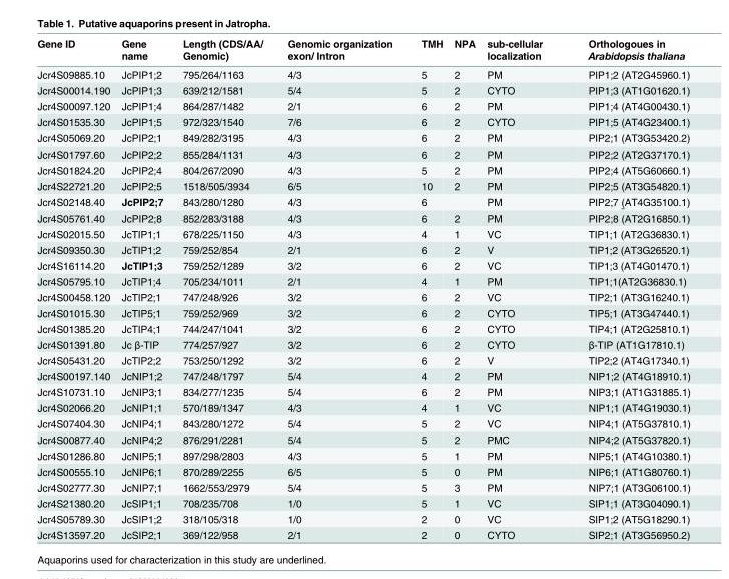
<table><thead><tr><td>Gene ID</td><td>Gene name</td><td>Length (CDS/AA/ Genomic)</td><td>Genomic organization exon/ Intron</td><td>TMH</td><td>NPA</td><td>sub-cellular localization</td><td>Orthologoues in Arabidopsis thaliana</td></tr></thead><tbody><tr><td>Jcr4S09885.10</td><td>JcPIP1;2</td><td>795/264/1163</td><td>4/3</td><td>5</td><td>2</td><td>PM</td><td>PIP1;2 (AT2G45960.1)</td></tr><tr><td>Jcr4S00014.190</td><td>JcPIP1;3</td><td>639/212/1581</td><td>5/4</td><td>5</td><td>2</td><td>CYTO</td><td>PIP1;3 (AT1G01620.1)</td></tr><tr><td>Jcr4S00097.120</td><td>JcPIP1;4</td><td>864/287/1482</td><td>2/1</td><td>6</td><td>2</td><td>PM</td><td>PIP1;4 (AT4G00430.1)</td></tr><tr><td>Jcr4S01535.30</td><td>JcPIP1;5</td><td>972/323/1540</td><td>7/6</td><td>6</td><td>2</td><td>CYTO</td><td>PIP1;5 (AT4G23400.1)</td></tr><tr><td>Jcr4S05069.20</td><td>JcPIP2;1</td><td>849/282/3195</td><td>4/3</td><td>6</td><td>2</td><td>PM</td><td>PIP2;1 (AT3G53420.2)</td></tr><tr><td>Jcr4S01797.60</td><td>JcPIP2;2</td><td>855/284/1131</td><td>4/3</td><td>6</td><td>2</td><td>PM</td><td>PIP2;2 (AT2G37170.1)</td></tr><tr><td>Jcr4S01824.20</td><td>JcPIP2;4</td><td>804/267/2090</td><td>4/3</td><td>5</td><td>2</td><td>PM</td><td>PIP2;4 (AT5G60660.1)</td></tr><tr><td>Jcr4S22721.20</td><td>JcPIP2;5</td><td>1518/505/3934</td><td>6/5</td><td>10</td><td>2</td><td>PM</td><td>PIP2;5 (AT3G54820.1)</td></tr><tr><td>Jcr4S02148.40</td><td>JcPIP2;7</td><td>843/280/1280</td><td>4/3</td><td>6</td><td></td><td>PM</td><td>PIP2;7 (AT4G35100.1)</td></tr><tr><td>Jcr4S05761.40</td><td>JcPIP2;8</td><td>852/283/3188</td><td>4/3</td><td>6</td><td>2</td><td>PM</td><td>PIP2;8 (AT2G16850.1)</td></tr><tr><td>Jcr4S02015.50</td><td>JcTIP1;1</td><td>678/225/1150</td><td>4/3</td><td>4</td><td>1</td><td>VC</td><td>TIP1;1 (AT2G36830.1)</td></tr><tr><td>Jcr4S09350.30</td><td>JcTIP1;2</td><td>759/252/854</td><td>2/1</td><td>6</td><td>2</td><td>V</td><td>TIP1;2 (AT3G26520.1)</td></tr><tr><td>Jcr4S16114.20</td><td>JcTIP1;3</td><td>759/252/1289</td><td>3/2</td><td>6</td><td>2</td><td>VC</td><td>TIP1;3 (AT4G01470.1)</td></tr><tr><td>Jcr4S05795.10</td><td>JcTIP1;4</td><td>705/234/1011</td><td>2/1</td><td>4</td><td>1</td><td>PM</td><td>TIP1;1(AT2G36830.1)</td></tr><tr><td>Jcr4S00458.120</td><td>JcTIP2;1</td><td>747/248/926</td><td>3/2</td><td>6</td><td>2</td><td>VC</td><td>TIP2;1 (AT3G16240.1)</td></tr><tr><td>Jcr4S01015.30</td><td>JcTIP5;1</td><td>759/252/969</td><td>3/2</td><td>6</td><td>2</td><td>CYTO</td><td>TIP5;1 (AT3G47440.1)</td></tr><tr><td>Jcr4S01385.20</td><td>JcTIP4;1</td><td>744/247/1041</td><td>3/2</td><td>6</td><td>2</td><td>CYTO</td><td>TIP4;1 (AT2G25810.1)</td></tr><tr><td>Jcr4S01391.80</td><td>Jc β-TIP</td><td>774/257/927</td><td>3/2</td><td>6</td><td>2</td><td>CYTO</td><td>β-TIP (AT1G17810.1)</td></tr><tr><td>Jcr4S05431.20</td><td>JcTIP2;2</td><td>753/250/1292</td><td>3/2</td><td>6</td><td>2</td><td>V</td><td>TIP2;2 (AT4G17340.1)</td></tr><tr><td>Jcr4S00197.140</td><td>JcNIP1;2</td><td>747/248/1797</td><td>5/4</td><td>4</td><td>2</td><td>PM</td><td>NIP1;2 (AT4G18910.1)</td></tr><tr><td>Jcr4S10731.10</td><td>JcNIP3;1</td><td>834/277/1235</td><td>5/4</td><td>6</td><td>2</td><td>PM</td><td>NIP3;1 (AT1G31885.1)</td></tr><tr><td>Jcr4S02066.20</td><td>JcNIP1;1</td><td>570/189/1347</td><td>4/3</td><td>4</td><td>1</td><td>VC</td><td>NIP1;1 (AT4G19030.1)</td></tr><tr><td>Jcr4S07404.30</td><td>JcNIP4;1</td><td>843/280/1272</td><td>5/4</td><td>5</td><td>2</td><td>VC</td><td>NIP4;1 (AT5G37810.1)</td></tr><tr><td>Jcr4S00877.40</td><td>JcNIP4;2</td><td>876/291/2281</td><td>5/4</td><td>5</td><td>2</td><td>PMC</td><td>NIP4;2 (AT5G37820.1)</td></tr><tr><td>Jcr4S01286.80</td><td>JcNIP5;1</td><td>897/298/2803</td><td>4/3</td><td>5</td><td>1</td><td>PM</td><td>NIP5;1 (AT4G10380.1)</td></tr><tr><td>Jcr4S00555.10</td><td>JcNIP6;1</td><td>870/289/2255</td><td>6/5</td><td>5</td><td>0</td><td>PM</td><td>NIP6;1 (AT1G80760.1)</td></tr><tr><td>Jcr4S02777.30</td><td>JcNIP7;1</td><td>1662/553/2979</td><td>5/4</td><td>5</td><td>3</td><td>PM</td><td>NIP7;1 (AT3G06100.1)</td></tr><tr><td>Jcr4S21380.20</td><td>JcSIP1;1</td><td>708/235/708</td><td>1/0</td><td>5</td><td>1</td><td>VC</td><td>SIP1;1 (AT3G04090.1)</td></tr><tr><td>Jcr4S05789.30</td><td>JcSIP1;2</td><td>318/105/318</td><td>1/0</td><td>2</td><td>0</td><td>VC</td><td>SIP1;2 (AT5G18290.1)</td></tr><tr><td>Jcr4S13597.20</td><td>JcSIP2;1</td><td>369/122/958</td><td>2/1</td><td>2</td><td>0</td><td>CYTO</td><td>SIP2;1 (AT3G56950.2)</td></tr></tbody></table>